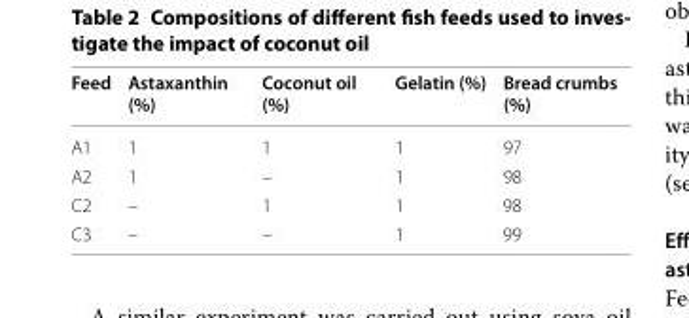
<table><thead><tr><td>Feed</td><td>Astaxanthin (%)</td><td>Coconut oil (%)</td><td>Gelatin (%)</td><td>Bread crumbs (%)</td></tr></thead><tbody><tr><td>A1</td><td>1</td><td>1</td><td>1</td><td>97</td></tr><tr><td>A2</td><td>1</td><td>–</td><td>1</td><td>98</td></tr><tr><td>C2</td><td>–</td><td>1</td><td>1</td><td>98</td></tr><tr><td>C3</td><td>–</td><td>–</td><td>1</td><td>99</td></tr></tbody></table>